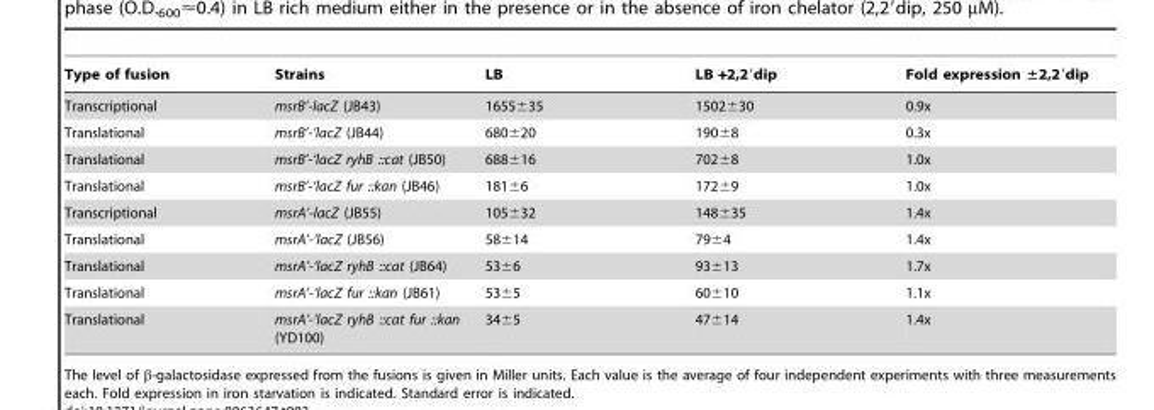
<table><thead><tr><td>Type of fusion</td><td>Strains</td><td>LB</td><td>LB +2,2′dip</td><td>Fold expression ±2,2′dip</td></tr></thead><tbody><tr><td>Transcriptional</td><td>msrB’-lacZ (JB43)</td><td>1655±35</td><td>1502±30</td><td>0.9x</td></tr><tr><td>Translational</td><td>msrB’-‘lacZ (JB44)</td><td>680±20</td><td>190±8</td><td>0.3x</td></tr><tr><td>Translational</td><td>msrB’-‘lacZ ryhB ::cat (JB50)</td><td>688±16</td><td>702±8</td><td>1.0x</td></tr><tr><td>Translational</td><td>msrB’-‘lacZ fur ::kan (JB46)</td><td>181±6</td><td>172±9</td><td>1.0x</td></tr><tr><td>Transcriptional</td><td>msrA’-lacZ (JB55)</td><td>105±32</td><td>148±35</td><td>1.4x</td></tr><tr><td>Translational</td><td>msrA’-‘lacZ (JB56)</td><td>58±14</td><td>79±4</td><td>1.4x</td></tr><tr><td>Translational</td><td>msrA’-‘lacZ ryhB ::cat (JB64)</td><td>53±6</td><td>93±13</td><td>1.7x</td></tr><tr><td>Translational</td><td>msrA’-‘lacZ fur ::kan (JB61)</td><td>53±5</td><td>60±10</td><td>1.1x</td></tr><tr><td>Translational</td><td>msrA’-‘lacZ ryhB ::cat fur ::kan (YD100)</td><td>34±5</td><td>47±14</td><td>1.4x</td></tr></tbody></table>